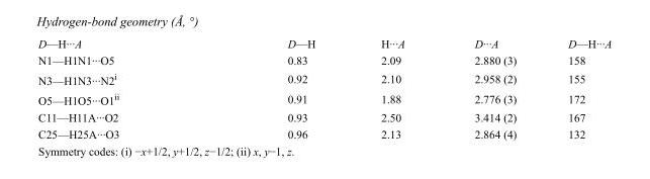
<table><tbody><tr><td>D—H···A</td><td>D—H</td><td>H···A</td><td>D···A</td><td>D—H···A</td></tr><tr><td>N1—H1N1···O5</td><td>0.83</td><td>2.09</td><td>2.880 (3)</td><td>158</td></tr><tr><td>N3—H1N3···N2<sup>i</sup></td><td>0.92</td><td>2.10</td><td>2.958 (2)</td><td>155</td></tr><tr><td>O5—H1O5···O1<sup>ii</sup></td><td>0.91</td><td>1.88</td><td>2.776 (3)</td><td>172</td></tr><tr><td>C11—H11A···O2</td><td>0.93</td><td>2.50</td><td>3.414 (2)</td><td>167</td></tr><tr><td>C25—H25A···O3</td><td>0.96</td><td>2.13</td><td>2.864 (4)</td><td>132</td></tr></tbody></table>